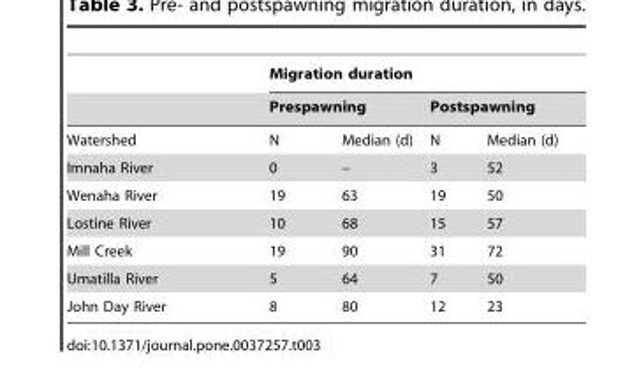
<table><thead><tr><td rowspan="3">Watershed</td><td colspan="4">Migration duration</td></tr><tr><td colspan="2">Prespawning</td><td colspan="2">Postspawning</td></tr><tr><td>N</td><td>Median (d)</td><td>N</td><td>Median (d)</td></tr></thead><tbody><tr><td>Imnaha River</td><td>0</td><td>–</td><td>3</td><td>52</td></tr><tr><td>Wenaha River</td><td>19</td><td>63</td><td>19</td><td>50</td></tr><tr><td>Lostine River</td><td>10</td><td>68</td><td>15</td><td>57</td></tr><tr><td>Mill Creek</td><td>19</td><td>90</td><td>31</td><td>72</td></tr><tr><td>Umatilla River</td><td>5</td><td>64</td><td>7</td><td>50</td></tr><tr><td>John Day River</td><td>8</td><td>80</td><td>12</td><td>23</td></tr></tbody></table>